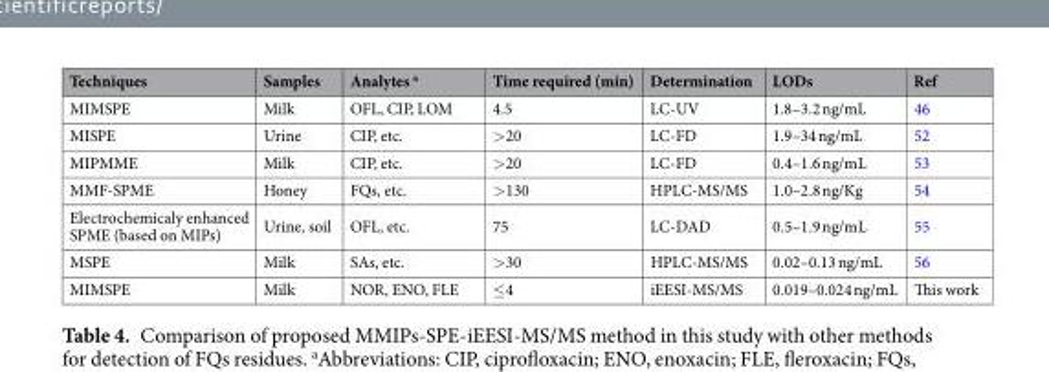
<table><thead><tr><td>Techniques</td><td>Samples</td><td>Analytes <sup>a</sup></td><td>Time required (min)</td><td>Determination</td><td>LODs</td><td>Ref</td></tr></thead><tbody><tr><td>MIMSPE</td><td>Milk</td><td>OFL, CIP, LOM</td><td>4.5</td><td>LC-UV</td><td>1.8–3.2 ng/mL</td><td>46</td></tr><tr><td>MISPE</td><td>Urine</td><td>CIP, etc.</td><td>&gt;20</td><td>LC-FD</td><td>1.9–34 ng/mL</td><td>52</td></tr><tr><td>MIPMME</td><td>Milk</td><td>CIP, etc.</td><td>&gt;20</td><td>LC-FD</td><td>0.4–1.6 ng/mL</td><td>53</td></tr><tr><td>MMF-SPME</td><td>Honey</td><td>FQs, etc.</td><td>&gt;130</td><td>HPLC-MS/MS</td><td>1.0–2.8 ng/Kg</td><td>54</td></tr><tr><td>Electrochemicaly enhanced SPME (based on MIPs)</td><td>Urine, soil</td><td>OFL, etc.</td><td>75</td><td>LC-DAD</td><td>0.5–1.9 ng/mL</td><td>55</td></tr><tr><td>MSPE</td><td>Milk</td><td>SAs, etc.</td><td>&gt;30</td><td>HPLC-MS/MS</td><td>0.02–0.13 ng/mL</td><td>56</td></tr><tr><td>MIMSPE</td><td>Milk</td><td>NOR, ENO, FLE</td><td>≤4</td><td>iEESI-MS/MS</td><td>0.019–0.024 ng/mL</td><td>This work</td></tr></tbody></table>